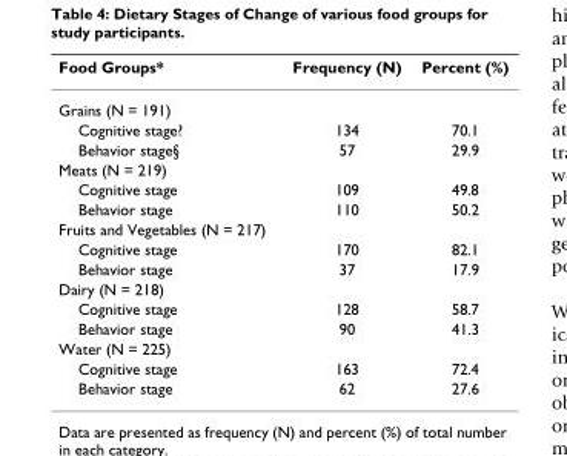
<table><thead><tr><td>Food Groups*</td><td>Frequency (N)</td><td>Percent (%)</td></tr></thead><tbody><tr><td colspan="3">Grains (N = 191)</td></tr><tr><td>Cognitive stage?</td><td>134</td><td>70.1</td></tr><tr><td>Behavior stage§</td><td>57</td><td>29.9</td></tr><tr><td colspan="3">Meats (N = 219)</td></tr><tr><td>Cognitive stage</td><td>109</td><td>49.8</td></tr><tr><td>Behavior stage</td><td>110</td><td>50.2</td></tr><tr><td colspan="3">Fruits and Vegetables (N = 217)</td></tr><tr><td>Cognitive stage</td><td>170</td><td>82.1</td></tr><tr><td>Behavior stage</td><td>37</td><td>17.9</td></tr><tr><td colspan="3">Dairy (N = 218)</td></tr><tr><td>Cognitive stage</td><td>128</td><td>58.7</td></tr><tr><td>Behavior stage</td><td>90</td><td>41.3</td></tr><tr><td colspan="3">Water (N = 225)</td></tr><tr><td>Cognitive stage</td><td>163</td><td>72.4</td></tr><tr><td>Behavior stage</td><td>62</td><td>27.6</td></tr></tbody></table>